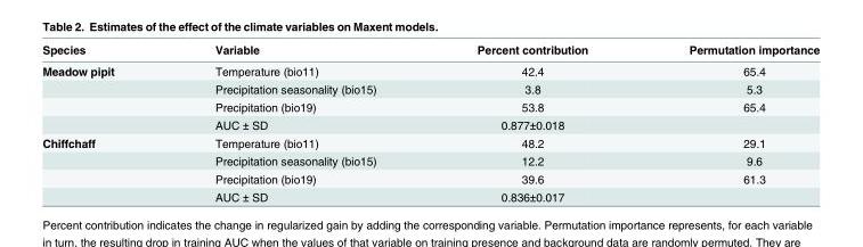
<table><thead><tr><td>Species</td><td>Variable</td><td>Percent contribution</td><td>Permutation importance</td></tr></thead><tbody><tr><td rowspan="4">Meadow pipit</td><td>Temperature (bio11)</td><td>42.4</td><td>65.4</td></tr><tr><td>Precipitation seasonality (bio15)</td><td>3.8</td><td>5.3</td></tr><tr><td>Precipitation (bio19)</td><td>53.8</td><td>65.4</td></tr><tr><td>AUC ± SD</td><td>0.877±0.018</td><td></td></tr><tr><td rowspan="4">Chiffchaff</td><td>Temperature (bio11)</td><td>48.2</td><td>29.1</td></tr><tr><td>Precipitation seasonality (bio15)</td><td>12.2</td><td>9.6</td></tr><tr><td>Precipitation (bio19)</td><td>39.6</td><td>61.3</td></tr><tr><td>AUC ± SD</td><td>0.836±0.017</td><td></td></tr></tbody></table>